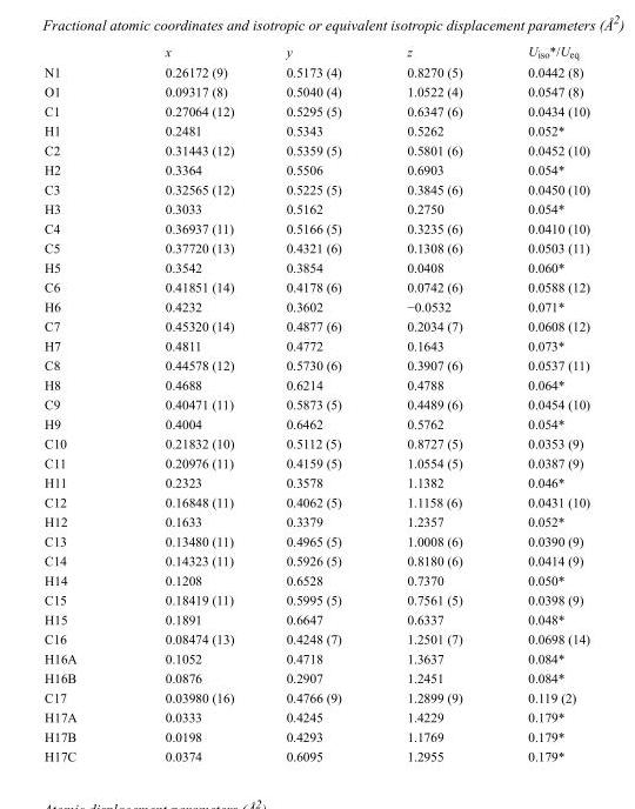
<table><thead><tr><td></td><td>x</td><td>y</td><td>z</td><td>U<sub>iso</sub>*/U<sub>eq</sub></td></tr></thead><tbody><tr><td>N1</td><td>0.26172 (9)</td><td>0.5173 (4)</td><td>0.8270 (5)</td><td>0.0442 (8)</td></tr><tr><td>O1</td><td>0.09317 (8)</td><td>0.5040 (4)</td><td>1.0522 (4)</td><td>0.0547 (8)</td></tr><tr><td>C1</td><td>0.27064 (12)</td><td>0.5295 (5)</td><td>0.6347 (6)</td><td>0.0434 (10)</td></tr><tr><td>H1</td><td>0.2481</td><td>0.5343</td><td>0.5262</td><td>0.052*</td></tr><tr><td>C2</td><td>0.31443 (12)</td><td>0.5359 (5)</td><td>0.5801 (6)</td><td>0.0452 (10)</td></tr><tr><td>H2</td><td>0.3364</td><td>0.5506</td><td>0.6903</td><td>0.054*</td></tr><tr><td>C3</td><td>0.32565 (12)</td><td>0.5225 (5)</td><td>0.3845 (6)</td><td>0.0450 (10)</td></tr><tr><td>H3</td><td>0.3033</td><td>0.5162</td><td>0.2750</td><td>0.054*</td></tr><tr><td>C4</td><td>0.36937 (11)</td><td>0.5166 (5)</td><td>0.3235 (6)</td><td>0.0410 (10)</td></tr><tr><td>C5</td><td>0.37720 (13)</td><td>0.4321 (6)</td><td>0.1308 (6)</td><td>0.0503 (11)</td></tr><tr><td>H5</td><td>0.3542</td><td>0.3854</td><td>0.0408</td><td>0.060*</td></tr><tr><td>C6</td><td>0.41851 (14)</td><td>0.4178 (6)</td><td>0.0742 (6)</td><td>0.0588 (12)</td></tr><tr><td>H6</td><td>0.4232</td><td>0.3602</td><td>−0.0532</td><td>0.071*</td></tr><tr><td>C7</td><td>0.45320 (14)</td><td>0.4877 (6)</td><td>0.2034 (7)</td><td>0.0608 (12)</td></tr><tr><td>H7</td><td>0.4811</td><td>0.4772</td><td>0.1643</td><td>0.073*</td></tr><tr><td>C8</td><td>0.44578 (12)</td><td>0.5730 (6)</td><td>0.3907 (6)</td><td>0.0537 (11)</td></tr><tr><td>H8</td><td>0.4688</td><td>0.6214</td><td>0.4788</td><td>0.064*</td></tr><tr><td>C9</td><td>0.40471 (11)</td><td>0.5873 (5)</td><td>0.4489 (6)</td><td>0.0454 (10)</td></tr><tr><td>H9</td><td>0.4004</td><td>0.6462</td><td>0.5762</td><td>0.054*</td></tr><tr><td>C10</td><td>0.21832 (10)</td><td>0.5112 (5)</td><td>0.8727 (5)</td><td>0.0353 (9)</td></tr><tr><td>C11</td><td>0.20976 (11)</td><td>0.4159 (5)</td><td>1.0554 (5)</td><td>0.0387 (9)</td></tr><tr><td>H11</td><td>0.2323</td><td>0.3578</td><td>1.1382</td><td>0.046*</td></tr><tr><td>C12</td><td>0.16848 (11)</td><td>0.4062 (5)</td><td>1.1158 (6)</td><td>0.0431 (10)</td></tr><tr><td>H12</td><td>0.1633</td><td>0.3379</td><td>1.2357</td><td>0.052*</td></tr><tr><td>C13</td><td>0.13480 (11)</td><td>0.4965 (5)</td><td>1.0008 (6)</td><td>0.0390 (9)</td></tr><tr><td>C14</td><td>0.14323 (11)</td><td>0.5926 (5)</td><td>0.8180 (6)</td><td>0.0414 (9)</td></tr><tr><td>H14</td><td>0.1208</td><td>0.6528</td><td>0.7370</td><td>0.050*</td></tr><tr><td>C15</td><td>0.18419 (11)</td><td>0.5995 (5)</td><td>0.7561 (5)</td><td>0.0398 (9)</td></tr><tr><td>H15</td><td>0.1891</td><td>0.6647</td><td>0.6337</td><td>0.048*</td></tr><tr><td>C16</td><td>0.08474 (13)</td><td>0.4248 (7)</td><td>1.2501 (7)</td><td>0.0698 (14)</td></tr><tr><td>H16A</td><td>0.1052</td><td>0.4718</td><td>1.3637</td><td>0.084*</td></tr><tr><td>H16B</td><td>0.0876</td><td>0.2907</td><td>1.2451</td><td>0.084*</td></tr><tr><td>C17</td><td>0.03980 (16)</td><td>0.4766 (9)</td><td>1.2899 (9)</td><td>0.119 (2)</td></tr><tr><td>H17A</td><td>0.0333</td><td>0.4245</td><td>1.4229</td><td>0.179*</td></tr><tr><td>H17B</td><td>0.0198</td><td>0.4293</td><td>1.1769</td><td>0.179*</td></tr><tr><td>H17C</td><td>0.0374</td><td>0.6095</td><td>1.2955</td><td>0.179*</td></tr></tbody></table>